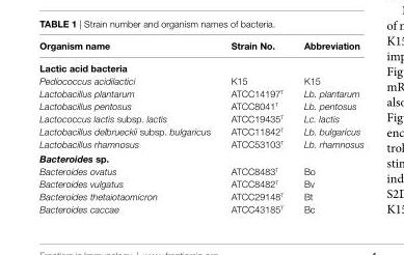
<table><thead><tr><td>Organism name</td><td>strain no.</td><td>abbreviation</td></tr></thead><tbody><tr><td colspan="3">lactic acid bacteria</td></tr><tr><td>Pediococcus acidilactici</td><td>K15</td><td>K15</td></tr><tr><td>Lactobacillus plantarum</td><td>ATCC14197<sup>T</sup></td><td>Lb. plantarum</td></tr><tr><td>Lactobacillus pentosus</td><td>ATCC8041<sup>T</sup></td><td>Lb. pentosus</td></tr><tr><td>Lactococcus lactis subsp. lactis</td><td>ATCC19435<sup>T</sup></td><td>Lc. lactis</td></tr><tr><td>Lactobacillus delbrueckii subsp. bulgaricus</td><td>ATCC11842<sup>T</sup></td><td>Lb. bulgaricus</td></tr><tr><td>Lactobacillus rhamnosus</td><td>ATCC53103<sup>T</sup></td><td>Lb. rhamnosus</td></tr><tr><td colspan="3">Bacteroides sp.</td></tr><tr><td>Bacteroides ovatus</td><td>ATCC8483<sup>T</sup></td><td>Bo</td></tr><tr><td>Bacteroides vulgatus</td><td>ATCC8482<sup>T</sup></td><td>Bv</td></tr><tr><td>Bacteroides thetaiotaomicron</td><td>ATCC29148<sup>T</sup></td><td>Bt</td></tr><tr><td>Bacteroides caccae</td><td>ATCC43185<sup>T</sup></td><td>Bc</td></tr></tbody></table>